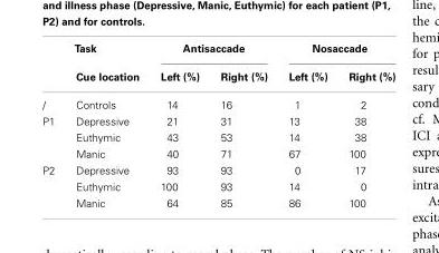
<table><thead><tr><td rowspan="2"></td><td rowspan="2">Task Cue location</td><td colspan="2">Antisaccade</td><td colspan="2">Nosaccade</td></tr><tr><td>Left (%)</td><td>Right (%)</td><td>Left (%)</td><td>Right (%)</td></tr></thead><tbody><tr><td>/</td><td>Controls</td><td>14</td><td>16</td><td>1</td><td>2</td></tr><tr><td rowspan="3">P1</td><td>Depressive</td><td>21</td><td>31</td><td>13</td><td>38</td></tr><tr><td>Euthymic</td><td>43</td><td>53</td><td>14</td><td>38</td></tr><tr><td>Manic</td><td>40</td><td>71</td><td>67</td><td>100</td></tr><tr><td rowspan="3">P2</td><td>Depressive</td><td>93</td><td>93</td><td>0</td><td>17</td></tr><tr><td>Euthymic</td><td>100</td><td>93</td><td>14</td><td>0</td></tr><tr><td>Manic</td><td>64</td><td>85</td><td>86</td><td>100</td></tr></tbody></table>